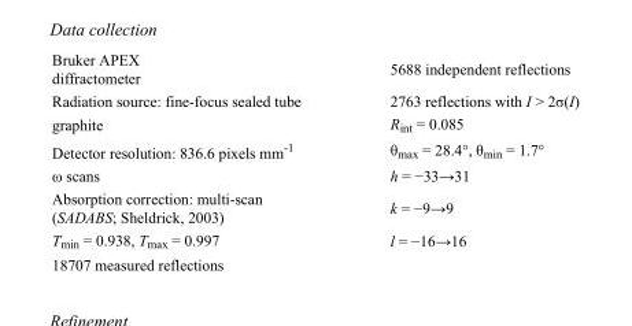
<table><tbody><tr><td>Bruker APEX diffractometer</td><td>5688 independent reflections</td></tr><tr><td>Radiation source: fine-focus sealed tube</td><td>2763 reflections with I &gt; 2σ(I)</td></tr><tr><td>graphite</td><td>R<sub>int</sub> = 0.085</td></tr><tr><td>Detector resolution: 836.6 pixels mm<sup>-1</sup></td><td>θ<sub>max</sub> = 28.4°, θ<sub>min</sub> = 1.7°</td></tr><tr><td>ω scans</td><td>h = −33→31</td></tr><tr><td>Absorption correction: multi-scan (SADABS; Sheldrick, 2003)</td><td>k = −9→9</td></tr><tr><td>T<sub>min</sub> = 0.938, T<sub>max</sub> = 0.997</td><td>l = −16→16</td></tr><tr><td>18707 measured reflections</td><td></td></tr></tbody></table>